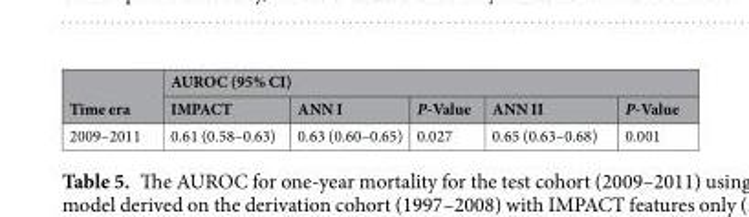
<table><thead><tr><td rowspan="2">Time era</td><td colspan="5">AUROC (95% CI)</td></tr><tr><td>IMPACT</td><td>ANN I</td><td>P-Value</td><td>ANN II</td><td>P-Value</td></tr></thead><tbody><tr><td>2009–2011</td><td>0.61 (0.58–0.63)</td><td>0.63 (0.60–0.65)</td><td>0.027</td><td>0.65 (0.63–0.68)</td><td>0.001</td></tr></tbody></table>